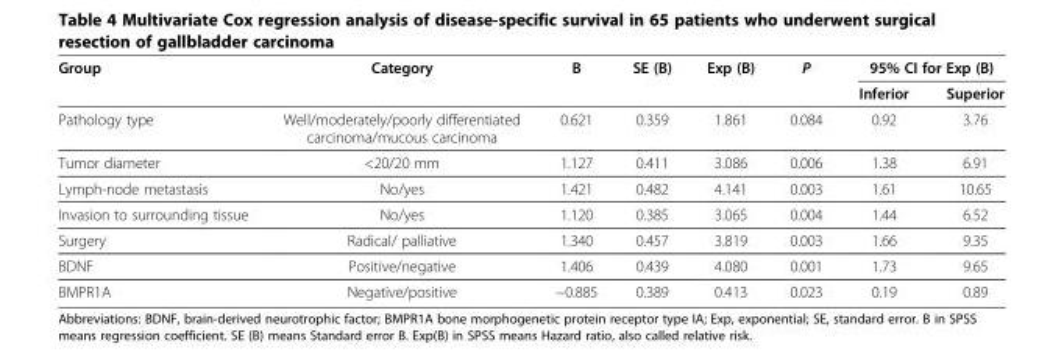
<table><thead><tr><td rowspan="2">Group</td><td rowspan="2">Category</td><td rowspan="2">B</td><td rowspan="2">SE (B)</td><td rowspan="2">Exp (B)</td><td rowspan="2">P</td><td colspan="2">95% CI for Exp (B)</td></tr><tr><td>Inferior</td><td>Superior</td></tr></thead><tbody><tr><td>Pathology type</td><td>Well/moderately/poorly differentiated carcinoma/mucous carcinoma</td><td>0.621</td><td>0.359</td><td>1.861</td><td>0.084</td><td>0.92</td><td>3.76</td></tr><tr><td>Tumor diameter</td><td>&lt;20/20 mm</td><td>1.127</td><td>0.411</td><td>3.086</td><td>0.006</td><td>1.38</td><td>6.91</td></tr><tr><td>Lymph-node metastasis</td><td>No/yes</td><td>1.421</td><td>0.482</td><td>4.141</td><td>0.003</td><td>1.61</td><td>10.65</td></tr><tr><td>Invasion to surrounding tissue</td><td>No/yes</td><td>1.120</td><td>0.385</td><td>3.065</td><td>0.004</td><td>1.44</td><td>6.52</td></tr><tr><td>Surgery</td><td>Radical/ palliative</td><td>1.340</td><td>0.457</td><td>3.819</td><td>0.003</td><td>1.66</td><td>9.35</td></tr><tr><td>BDNF</td><td>Positive/negative</td><td>1.406</td><td>0.439</td><td>4.080</td><td>0.001</td><td>1.73</td><td>9.65</td></tr><tr><td>BMPR1A</td><td>Negative/positive</td><td>−0.885</td><td>0.389</td><td>0.413</td><td>0.023</td><td>0.19</td><td>0.89</td></tr></tbody></table>